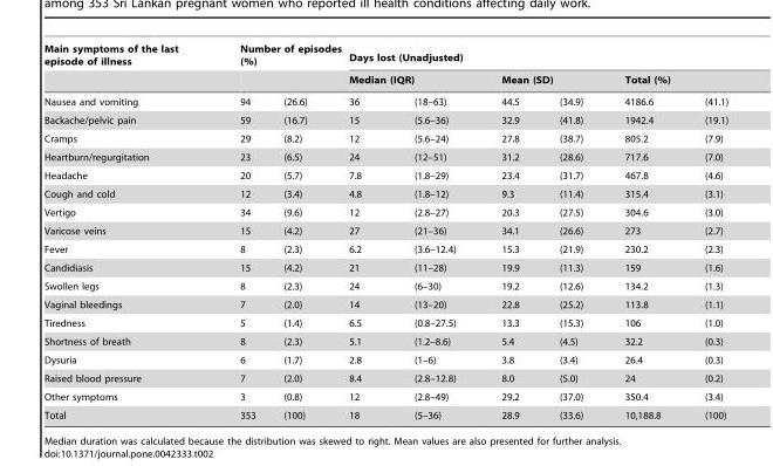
<table><thead><tr><td rowspan="3">Main symptoms of the last episode of illness Nausea and vomiting</td><td colspan="2">Number of episodes (%)</td><td colspan="6">Days lost (Unadjusted)</td></tr><tr><td rowspan="2">94</td><td rowspan="2">(26.6)</td><td colspan="2">Median (IQR)</td><td colspan="2">Mean (SD)</td><td colspan="2">Total (%)</td></tr><tr><td>36</td><td>(18–63)</td><td>44.5</td><td>(34.9)</td><td>4186.6</td><td>(41.1)</td></tr></thead><tbody><tr><td>Backache/pelvic pain</td><td>59</td><td>(16.7)</td><td>15</td><td>(5.6–36)</td><td>32.9</td><td>(41.8)</td><td>1942.4</td><td>(19.1)</td></tr><tr><td>Cramps</td><td>29</td><td>(8.2)</td><td>12</td><td>(5.6–24)</td><td>27.8</td><td>(38.7)</td><td>805.2</td><td>(7.9)</td></tr><tr><td>Heartburn/regurgitation</td><td>23</td><td>(6.5)</td><td>24</td><td>(12–51)</td><td>31.2</td><td>(28.6)</td><td>717.6</td><td>(7.0)</td></tr><tr><td>Headache</td><td>20</td><td>(5.7)</td><td>7.8</td><td>(1.8–29)</td><td>23.4</td><td>(31.7)</td><td>467.8</td><td>(4.6)</td></tr><tr><td>Cough and cold</td><td>12</td><td>(3.4)</td><td>4.8</td><td>(1.8–12)</td><td>9.3</td><td>(11.4)</td><td>315.4</td><td>(3.1)</td></tr><tr><td>Vertigo</td><td>34</td><td>(9.6)</td><td>12</td><td>(2.8–27)</td><td>20.3</td><td>(27.5)</td><td>304.6</td><td>(3.0)</td></tr><tr><td>Varicose veins</td><td>15</td><td>(4.2)</td><td>27</td><td>(21–36)</td><td>34.1</td><td>(26.6)</td><td>273</td><td>(2.7)</td></tr><tr><td>Fever</td><td>8</td><td>(2.3)</td><td>6.2</td><td>(3.6–12.4)</td><td>15.3</td><td>(21.9)</td><td>230.2</td><td>(2.3)</td></tr><tr><td>Candidiasis</td><td>15</td><td>(4.2)</td><td>21</td><td>(11–28)</td><td>19.9</td><td>(11.3)</td><td>159</td><td>(1.6)</td></tr><tr><td>Swollen legs</td><td>8</td><td>(2.3)</td><td>24</td><td>(6–30)</td><td>19.2</td><td>(12.6)</td><td>134.2</td><td>(1.3)</td></tr><tr><td>Vaginal bleedings</td><td>7</td><td>(2.0)</td><td>14</td><td>(13–20)</td><td>22.8</td><td>(25.2)</td><td>113.8</td><td>(1.1)</td></tr><tr><td>Tiredness</td><td>5</td><td>(1.4)</td><td>6.5</td><td>(0.8–27.5)</td><td>13.3</td><td>(15.3)</td><td>106</td><td>(1.0)</td></tr><tr><td>Shortness of breath</td><td>8</td><td>(2.3)</td><td>5.1</td><td>(1.2–8.6)</td><td>5.4</td><td>(4.5)</td><td>32.2</td><td>(0.3)</td></tr><tr><td>Dysuria</td><td>6</td><td>(1.7)</td><td>2.8</td><td>(1–6)</td><td>3.8</td><td>(3.4)</td><td>26.4</td><td>(0.3)</td></tr><tr><td>Raised blood pressure</td><td>7</td><td>(2.0)</td><td>8.4</td><td>(2.8–12.8)</td><td>8.0</td><td>(5.0)</td><td>24</td><td>(0.2)</td></tr><tr><td>Other symptoms</td><td>3</td><td>(0.8)</td><td>12</td><td>(2.8–49)</td><td>29.2</td><td>(37.0)</td><td>350.4</td><td>(3.4)</td></tr><tr><td>Total</td><td>353</td><td>(100)</td><td>18</td><td>(5–36)</td><td>28.9</td><td>(33.6)</td><td>10,188.8</td><td>(100)</td></tr></tbody></table>